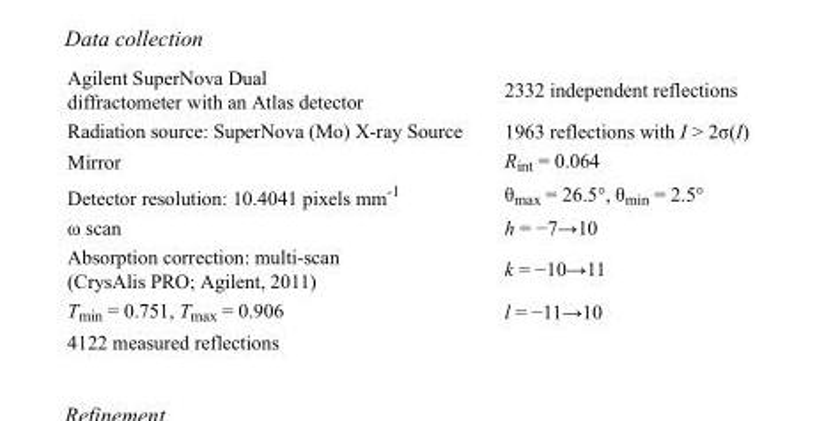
<table><tbody><tr><td>Agilent SuperNova Dual diffractometer with an Atlas detector</td><td>2332 independent reflections</td></tr><tr><td>Radiation source: SuperNova (Mo) X-ray Source</td><td>1963 reflections with I &gt; 2σ(I)</td></tr><tr><td>Mirror</td><td>R<sub>int</sub> = 0.064</td></tr><tr><td>Detector resolution: 10.4041 pixels mm<sup>-1</sup></td><td>θ<sub>max</sub> = 26.5°, θ<sub>min</sub> = 2.5°</td></tr><tr><td>ω scan</td><td>h = −7→10</td></tr><tr><td>Absorption correction: multi-scan (CrysAlis PRO; Agilent, 2011)</td><td>k = −10→11</td></tr><tr><td>T<sub>min</sub> = 0.751, T<sub>max</sub> = 0.906</td><td>l = −11→10</td></tr><tr><td>4122 measured reflections</td><td></td></tr></tbody></table>